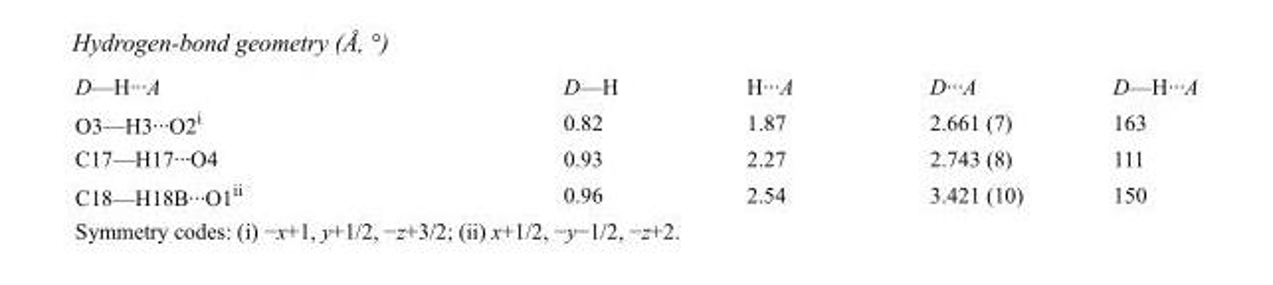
<table><tbody><tr><td>D—H···A</td><td>D—H</td><td>H···A</td><td>D···A</td><td>D—H···A</td></tr><tr><td>O3—H3···O2<sup>i</sup></td><td>0.82</td><td>1.87</td><td>2.661 (7)</td><td>163</td></tr><tr><td>C17—H17···O4</td><td>0.93</td><td>2.27</td><td>2.743 (8)</td><td>111</td></tr><tr><td>C18—H18B···O1<sup>ii</sup></td><td>0.96</td><td>2.54</td><td>3.421 (10)</td><td>150</td></tr></tbody></table>